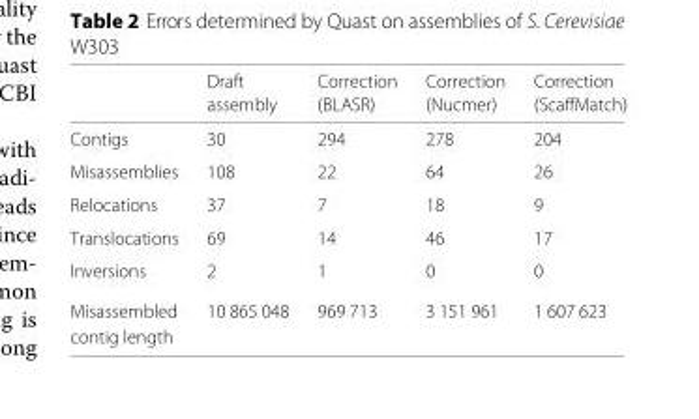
<table><thead><tr><td rowspan="2"></td><td rowspan="2">Draft assembly</td><td rowspan="2">Correction (BLASR)</td><td rowspan="2">Correction (Nucmer)</td><td rowspan="2">Correction (ScaffMatch)</td></tr><tr></tr></thead><tbody><tr><td>Contigs</td><td>30</td><td>294</td><td>278</td><td>204</td></tr><tr><td>Misassemblies</td><td>108</td><td>22</td><td>64</td><td>26</td></tr><tr><td>Relocations</td><td>37</td><td>7</td><td>18</td><td>9</td></tr><tr><td>Translocations</td><td>69</td><td>14</td><td>46</td><td>17</td></tr><tr><td>Inversions</td><td>2</td><td>1</td><td>0</td><td>0</td></tr><tr><td>Misassembled</td><td>10 865 048</td><td>969 713</td><td>3 151 961</td><td>1 607 623</td></tr><tr><td>contig length</td><td></td><td></td><td></td><td></td></tr></tbody></table>